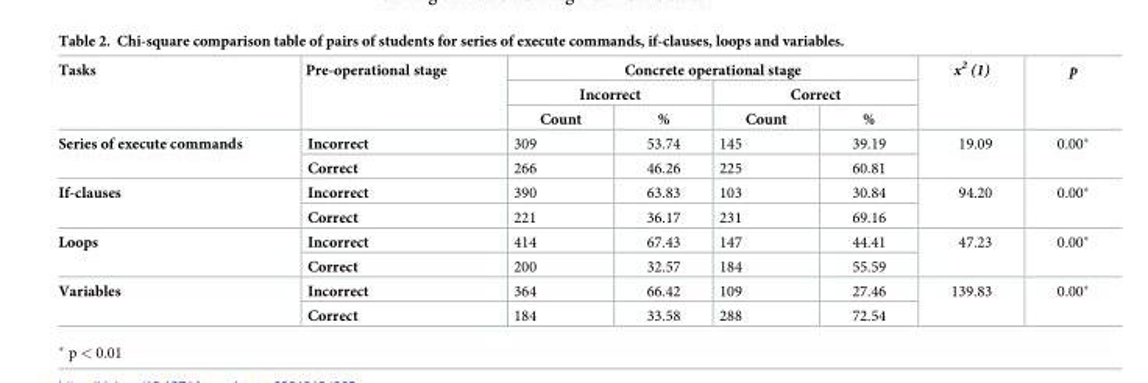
<table><thead><tr><td rowspan="3">Tasks</td><td rowspan="3">Pre-operational stage</td><td colspan="4">Concrete operational stage</td><td rowspan="3">x<sup>2</sup> (1)</td><td rowspan="3">p</td></tr><tr><td colspan="2">Incorrect</td><td colspan="2">Correct</td></tr><tr><td>Count</td><td>%</td><td>Count</td><td>%</td></tr></thead><tbody><tr><td rowspan="2">Series of execute commands</td><td>Incorrect</td><td>309</td><td>53.74</td><td>145</td><td>39.19</td><td rowspan="2">19.09</td><td rowspan="2">0.00*</td></tr><tr><td>Correct</td><td>266</td><td>46.26</td><td>225</td><td>60.81</td></tr><tr><td rowspan="2">If-clauses</td><td>Incorrect</td><td>390</td><td>63.83</td><td>103</td><td>30.84</td><td rowspan="2">94.20</td><td rowspan="2">0.00*</td></tr><tr><td>Correct</td><td>221</td><td>36.17</td><td>231</td><td>69.16</td></tr><tr><td rowspan="2">Loops</td><td>Incorrect</td><td>414</td><td>67.43</td><td>147</td><td>44.41</td><td rowspan="2">47.23</td><td rowspan="2">0.00*</td></tr><tr><td>Correct</td><td>200</td><td>32.57</td><td>184</td><td>55.59</td></tr><tr><td rowspan="2">Variables</td><td>Incorrect</td><td>364</td><td>66.42</td><td>109</td><td>27.46</td><td rowspan="2">139.83</td><td rowspan="2">0.00*</td></tr><tr><td>Correct</td><td>184</td><td>33.58</td><td>288</td><td>72.54</td></tr></tbody></table>